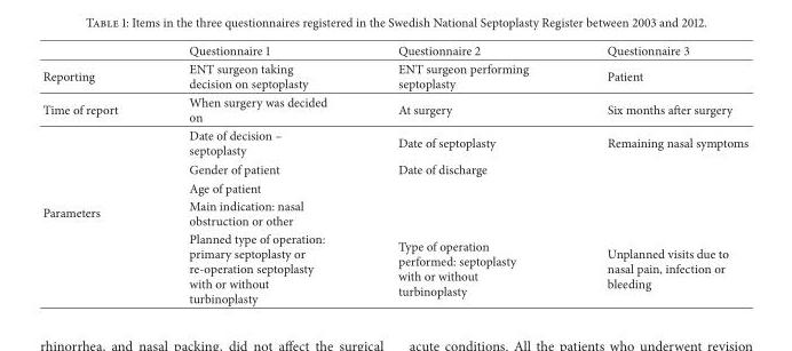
<table><thead><tr><td></td><td>Questionnaire 1</td><td>Questionnaire 2</td><td>Questionnaire 3</td></tr></thead><tbody><tr><td>Reporting</td><td>ENT surgeon taking decision on septoplasty</td><td>ENT surgeon performing septoplasty</td><td>Patient</td></tr><tr><td>Time of report</td><td>When surgery was decided on</td><td>At surgery</td><td>Six months after surgery</td></tr><tr><td rowspan="5">Parameters</td><td>Date of decision – septoplasty</td><td>Date of septoplasty</td><td>Remaining nasal symptoms</td></tr><tr><td>Gender of patient</td><td>Date of discharge</td><td></td></tr><tr><td>Age of patient</td><td></td><td></td></tr><tr><td>Main indication: nasal obstruction or other</td><td></td><td></td></tr><tr><td>Planned type of operation: primary septoplasty or re-operation septoplasty with or without turbinoplasty</td><td>Type of operation performed: septoplasty with or without turbinoplasty</td><td>Unplanned visits due to nasal pain, infection or bleeding</td></tr></tbody></table>